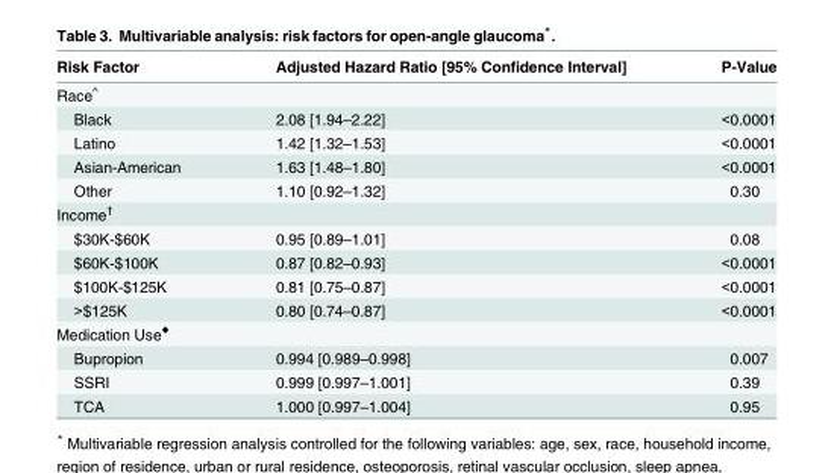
<table><thead><tr><td>Risk Factor</td><td>Adjusted Hazard Ratio [95% Confidence Interval]</td><td>P-Value</td></tr></thead><tbody><tr><td colspan="3">Race<sup>^</sup></td></tr><tr><td>Black</td><td>2.08 [1.94–2.22]</td><td>&lt;0.0001</td></tr><tr><td>Latino</td><td>1.42 [1.32–1.53]</td><td>&lt;0.0001</td></tr><tr><td>Asian-American</td><td>1.63 [1.48–1.80]</td><td>&lt;0.0001</td></tr><tr><td>Other</td><td>1.10 [0.92–1.32]</td><td>0.30</td></tr><tr><td colspan="3">Income<sup>†</sup></td></tr><tr><td>$30K-$60K</td><td>0.95 [0.89–1.01]</td><td>0.08</td></tr><tr><td>$60K-$100K</td><td>0.87 [0.82–0.93]</td><td>&lt;0.0001</td></tr><tr><td>$100K-$125K</td><td>0.81 [0.75–0.87]</td><td>&lt;0.0001</td></tr><tr><td>&gt;$125K</td><td>0.80 [0.74–0.87]</td><td>&lt;0.0001</td></tr><tr><td colspan="3">Medication Use<sup>♦</sup></td></tr><tr><td>Bupropion</td><td>0.994 [0.989–0.998]</td><td>0.007</td></tr><tr><td>SSRI</td><td>0.999 [0.997–1.001]</td><td>0.39</td></tr><tr><td>TCA</td><td>1.000 [0.997–1.004]</td><td>0.95</td></tr></tbody></table>